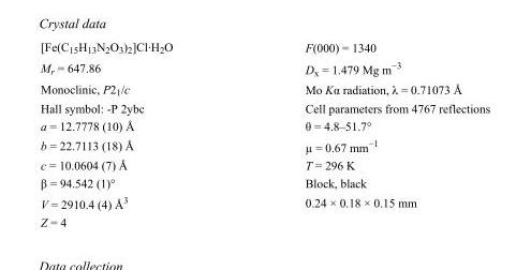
<table><tbody><tr><td>[Fe(C<sub>15</sub>H<sub>13</sub>N<sub>2</sub>O<sub>3</sub>)<sub>2</sub>]Cl·H<sub>2</sub>O</td><td>F(000) = 1340</td></tr><tr><td>M<sub>r</sub> = 647.86</td><td>D<sub>x</sub> = 1.479 Mg m<sup>−3</sup></td></tr><tr><td>Monoclinic, P2<sub>1</sub>/c</td><td>Mo Kα radiation, λ = 0.71073 Å</td></tr><tr><td>Hall symbol: -P 2ybc</td><td>Cell parameters from 4767 reflections</td></tr><tr><td>a = 12.7778 (10) Å</td><td>θ = 4.8–51.7°</td></tr><tr><td>b = 22.7113 (18) Å</td><td>µ = 0.67 mm<sup>−1</sup></td></tr><tr><td>c = 10.0604 (7) Å</td><td>T = 296 K</td></tr><tr><td>β = 94.542 (1)°</td><td>Block, black</td></tr><tr><td>V = 2910.4 (4) Å<sup>3</sup></td><td>0.24 × 0.18 × 0.15 mm</td></tr><tr><td>Z = 4</td><td></td></tr></tbody></table>